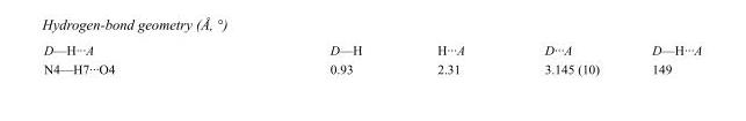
<table><tbody><tr><td>D—H···A</td><td>D—H</td><td>H···A</td><td>D···A</td><td>D—H···A</td></tr><tr><td>N4—H7···O4</td><td>0.93</td><td>2.31</td><td>3.145 (10)</td><td>149</td></tr></tbody></table>